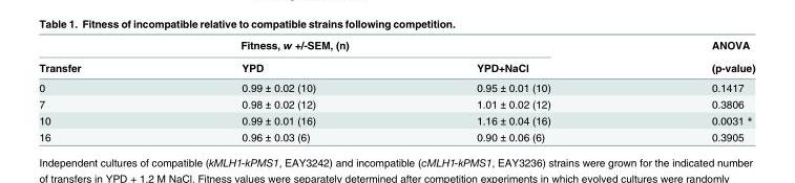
<table><thead><tr><td colspan="3">Fitness, w +/-SEM, (n)</td><td rowspan="2">ANOVA (p-value)</td></tr><tr><td>Transfer</td><td>YPD</td><td>YPD+NaCl</td></tr></thead><tbody><tr><td>0</td><td>0.99 ± 0.02 (10)</td><td>0.95 ± 0.01 (10)</td><td>0.1417</td></tr><tr><td>7</td><td>0.98 ± 0.02 (12)</td><td>1.01 ± 0.02 (12)</td><td>0.3806</td></tr><tr><td>10</td><td>0.99 ± 0.01 (16)</td><td>1.16 ± 0.04 (16)</td><td>0.0031 *</td></tr><tr><td>16</td><td>0.96 ± 0.03 (6)</td><td>0.90 ± 0.06 (6)</td><td>0.3905</td></tr></tbody></table>